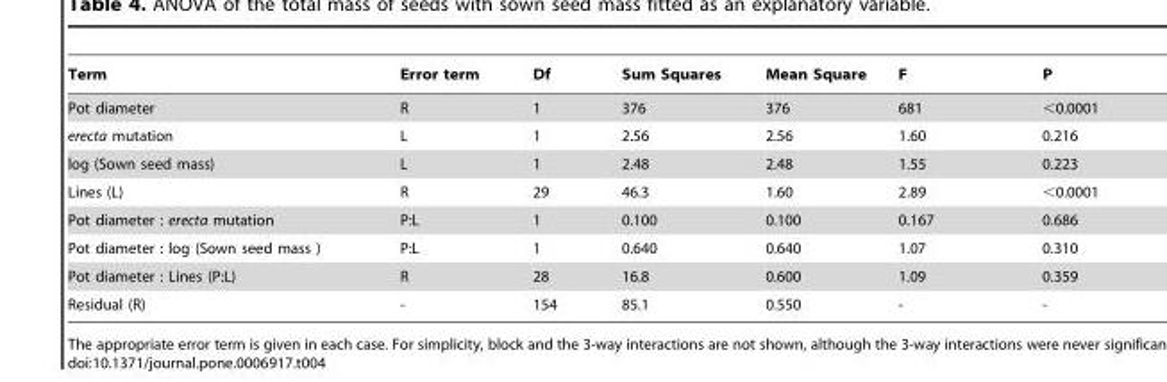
<table><thead><tr><td>Term</td><td>Error term</td><td>Df</td><td>Sum Squares</td><td>Mean Square</td><td>F</td><td>P</td></tr></thead><tbody><tr><td>Pot diameter</td><td>R</td><td>1</td><td>376</td><td>376</td><td>681</td><td>&lt;0.0001</td></tr><tr><td>erecta mutation</td><td>L</td><td>1</td><td>2.56</td><td>2.56</td><td>1.60</td><td>0.216</td></tr><tr><td>log (Sown seed mass)</td><td>L</td><td>1</td><td>2.48</td><td>2.48</td><td>1.55</td><td>0.223</td></tr><tr><td>Lines (L)</td><td>R</td><td>29</td><td>46.3</td><td>1.60</td><td>2.89</td><td>&lt;0.0001</td></tr><tr><td>Pot diameter : erecta mutation</td><td>P:L</td><td>1</td><td>0.100</td><td>0.100</td><td>0.167</td><td>0.686</td></tr><tr><td>Pot diameter : log (Sown seed mass )</td><td>P:L</td><td>1</td><td>0.640</td><td>0.640</td><td>1.07</td><td>0.310</td></tr><tr><td>Pot diameter : Lines (P:L)</td><td>R</td><td>28</td><td>16.8</td><td>0.600</td><td>1.09</td><td>0.359</td></tr><tr><td>Residual (R)</td><td>-</td><td>154</td><td>85.1</td><td>0.550</td><td>-</td><td>-</td></tr></tbody></table>